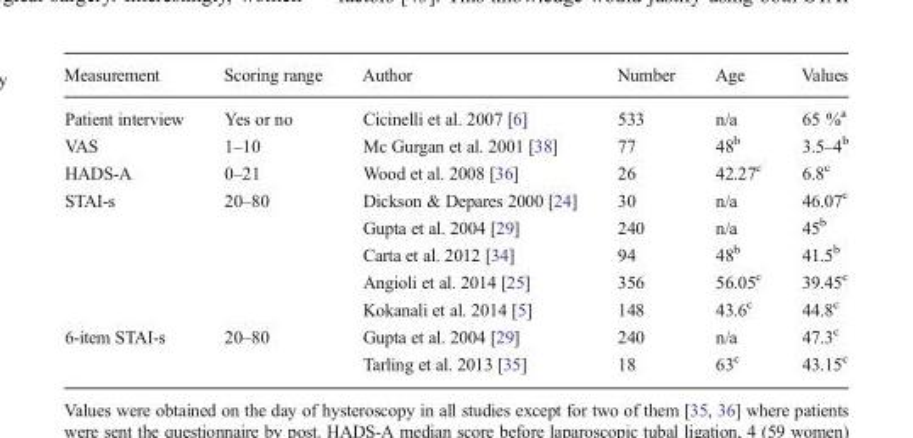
<table><thead><tr><td>Measurement</td><td>Scoring range</td><td>Author</td><td>Number</td><td>Age</td><td>Values</td></tr></thead><tbody><tr><td>Patient interview</td><td>Yes or no</td><td>Cicinelli et al. 2007 [6]</td><td>533</td><td>n/a</td><td>65 %<sup>a</sup></td></tr><tr><td>VAS</td><td>1–10</td><td>Mc Gurgan et al. 2001 [38]</td><td>77</td><td>48<sup>b</sup></td><td>3.5–4<sup>b</sup></td></tr><tr><td>HADS-A</td><td>0–21</td><td>Wood et al. 2008 [36]</td><td>26</td><td>42.27<sup>c</sup></td><td>6.8<sup>c</sup></td></tr><tr><td rowspan="5">STAI-s</td><td>20–80</td><td>Dickson &amp; Depares 2000 [24]</td><td>30</td><td>n/a</td><td>46.07<sup>c</sup></td></tr><tr><td></td><td>Gupta et al. 2004 [29]</td><td>240</td><td>n/a</td><td>45<sup>b</sup></td></tr><tr><td></td><td>Carta et al. 2012 [34]</td><td>94</td><td>48<sup>b</sup></td><td>41.5<sup>b</sup></td></tr><tr><td></td><td>Angioli et al. 2014 [25]</td><td>356</td><td>56.05<sup>c</sup></td><td>39.45<sup>c</sup></td></tr><tr><td></td><td>Kokanali et al. 2014 [5]</td><td>148</td><td>43.6<sup>c</sup></td><td>44.8<sup>c</sup></td></tr><tr><td rowspan="2">6-item STAI-s</td><td>20–80</td><td>Gupta et al. 2004 [29]</td><td>240</td><td>n/a</td><td>47.3<sup>c</sup></td></tr><tr><td></td><td>Tarling et al. 2013 [35]</td><td>18</td><td>63<sup>c</sup></td><td>43.15<sup>c</sup></td></tr></tbody></table>